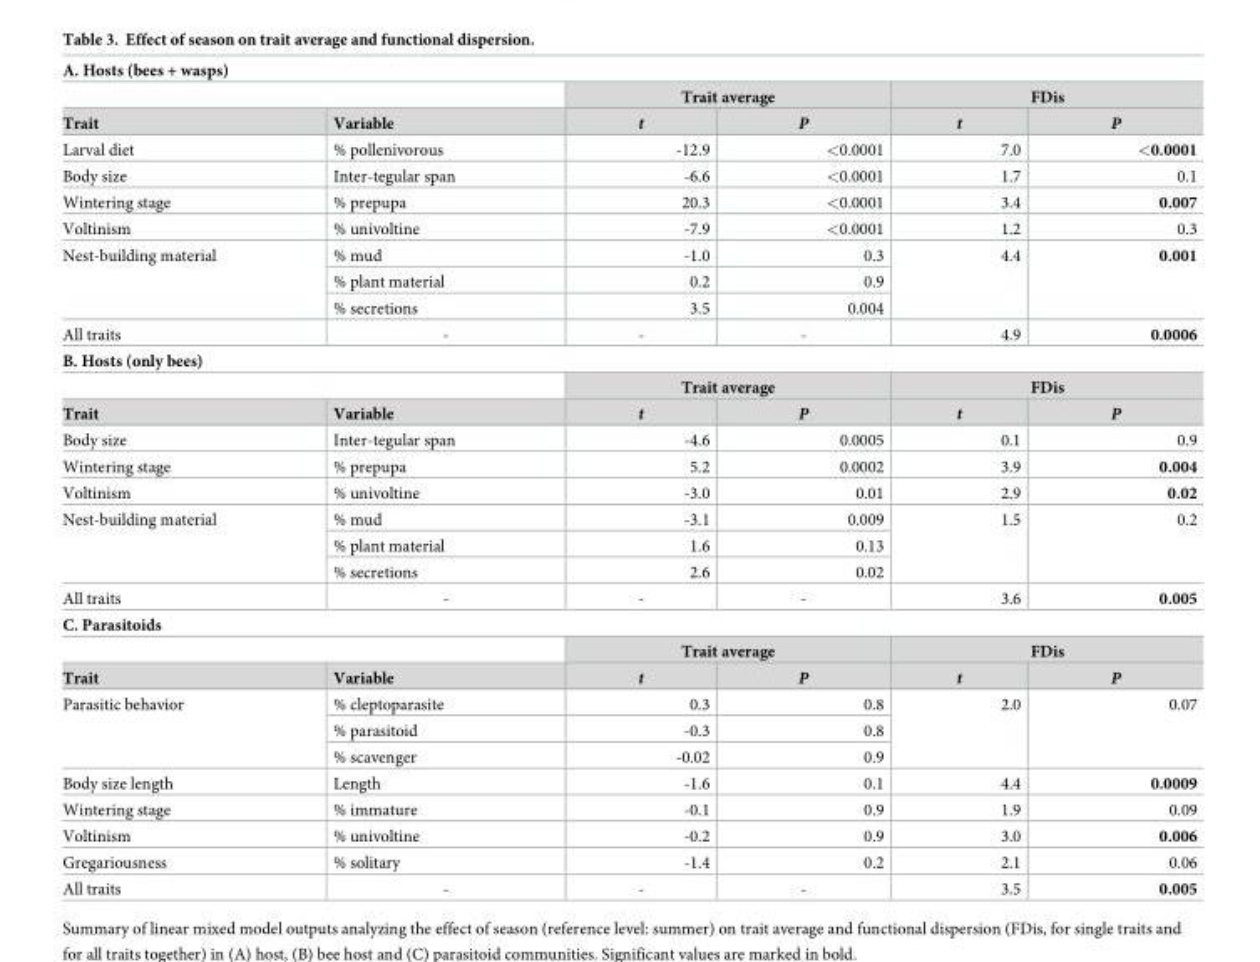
<table><tbody><tr><td colspan="6">A. Hosts (bees + wasps)</td></tr><tr><td colspan="2"></td><td colspan="2">Trait average</td><td colspan="2">FDis</td></tr><tr><td>Trait</td><td>Variable</td><td>t</td><td>P</td><td>t</td><td>P</td></tr><tr><td>Larval diet</td><td>% pollenivorous</td><td>-12.9</td><td>&lt;0.0001</td><td>7.0</td><td>&lt;0.0001</td></tr><tr><td>Body size</td><td>Inter-tegular span</td><td>-6.6</td><td>&lt;0.0001</td><td>1.7</td><td>0.1</td></tr><tr><td>Wintering stage</td><td>% prepupa</td><td>20.3</td><td>&lt;0.0001</td><td>3.4</td><td>0.007</td></tr><tr><td>Voltinism</td><td>% univoltine</td><td>-7.9</td><td>&lt;0.0001</td><td>1.2</td><td>0.3</td></tr><tr><td rowspan="3">Nest-building material</td><td>% mud</td><td>-1.0</td><td>0.3</td><td rowspan="3">4.4</td><td rowspan="3">0.001</td></tr><tr><td>% plant material</td><td>0.2</td><td>0.9</td></tr><tr><td>% secretions</td><td>3.5</td><td>0.004</td></tr><tr><td>All traits</td><td>-</td><td>-</td><td>-</td><td>4.9</td><td>0.0006</td></tr><tr><td colspan="6">B. Hosts (only bees)</td></tr><tr><td colspan="2"></td><td colspan="2">Trait average</td><td colspan="2">FDis</td></tr><tr><td>Trait</td><td>Variable</td><td>t</td><td>P</td><td>t</td><td>P</td></tr><tr><td>Body size</td><td>Inter-tegular span</td><td>-4.6</td><td>0.0005</td><td>0.1</td><td>0.9</td></tr><tr><td>Wintering stage</td><td>% prepupa</td><td>5.2</td><td>0.0002</td><td>3.9</td><td>0.004</td></tr><tr><td>Voltinism</td><td>% univoltine</td><td>-3.0</td><td>0.01</td><td>2.9</td><td>0.02</td></tr><tr><td rowspan="3">Nest-building material</td><td>% mud</td><td>-3.1</td><td>0.009</td><td rowspan="3">1.5</td><td rowspan="3">0.2</td></tr><tr><td>% plant material</td><td>1.6</td><td>0.13</td></tr><tr><td>% secretions</td><td>2.6</td><td>0.02</td></tr><tr><td>All traits</td><td>-</td><td>-</td><td>-</td><td>3.6</td><td>0.005</td></tr><tr><td colspan="6">C. Parasitoids</td></tr><tr><td colspan="2"></td><td colspan="2">Trait average</td><td colspan="2">FDis</td></tr><tr><td>Trait</td><td>Variable</td><td>t</td><td>P</td><td>t</td><td>P</td></tr><tr><td rowspan="3">Parasitic behavior</td><td>% cleptoparasite</td><td>0.3</td><td>0.8</td><td rowspan="3">2.0</td><td rowspan="3">0.07</td></tr><tr><td>% parasitoid</td><td>-0.3</td><td>0.8</td></tr><tr><td>% scavenger</td><td>-0.02</td><td>0.9</td></tr><tr><td>Body size length</td><td>Length</td><td>-1.6</td><td>0.1</td><td>4.4</td><td>0.0009</td></tr><tr><td>Wintering stage</td><td>% immature</td><td>-0.1</td><td>0.9</td><td>1.9</td><td>0.09</td></tr><tr><td>Voltinism</td><td>% univoltine</td><td>-0.2</td><td>0.9</td><td>3.0</td><td>0.006</td></tr><tr><td>Gregariousness</td><td>% solitary</td><td>-1.4</td><td>0.2</td><td>2.1</td><td>0.06</td></tr><tr><td>All traits</td><td>-</td><td>-</td><td>-</td><td>3.5</td><td>0.005</td></tr></tbody></table>